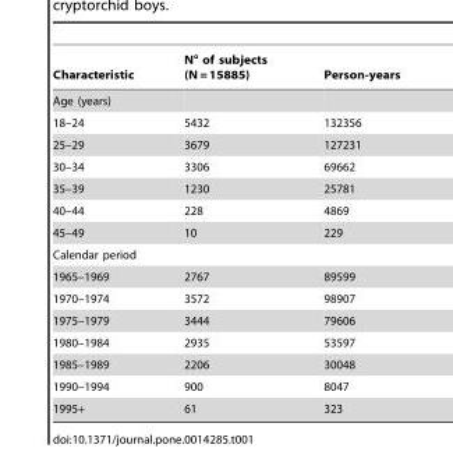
<table><thead><tr><td>Characteristic</td><td>N° of subjects (N = 15885)</td><td>Person-years</td></tr></thead><tbody><tr><td colspan="3">Age (years)</td></tr><tr><td>18–24</td><td>5432</td><td>132356</td></tr><tr><td>25–29</td><td>3679</td><td>127231</td></tr><tr><td>30–34</td><td>3306</td><td>69662</td></tr><tr><td>35–39</td><td>1230</td><td>25781</td></tr><tr><td>40–44</td><td>228</td><td>4869</td></tr><tr><td>45–49</td><td>10</td><td>229</td></tr><tr><td colspan="3">Calendar period</td></tr><tr><td>1965–1969</td><td>2767</td><td>89599</td></tr><tr><td>1970–1974</td><td>3572</td><td>98907</td></tr><tr><td>1975–1979</td><td>3444</td><td>79606</td></tr><tr><td>1980–1984</td><td>2935</td><td>53597</td></tr><tr><td>1985–1989</td><td>2206</td><td>30048</td></tr><tr><td>1990–1994</td><td>900</td><td>8047</td></tr><tr><td>1995+</td><td>61</td><td>323</td></tr></tbody></table>